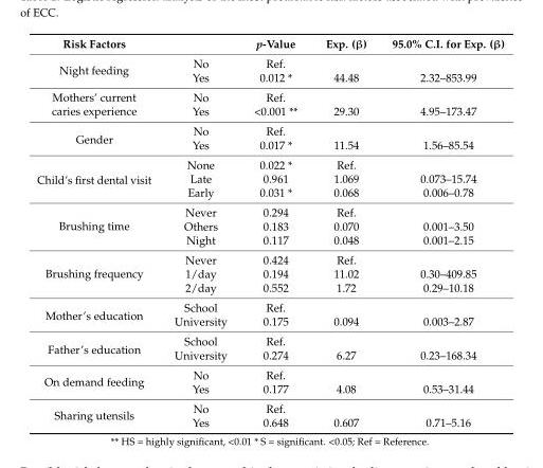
<table><thead><tr><td>Risk Factors</td><td></td><td>p-Value</td><td>Exp. (β)</td><td>95.0% C.I. for Exp. (β)</td></tr></thead><tbody><tr><td rowspan="2">Night feeding</td><td>No</td><td>Ref.</td><td></td><td></td></tr><tr><td>Yes</td><td>0.012 *</td><td>44.48</td><td>2.32–853.99</td></tr><tr><td rowspan="2">Mothers’ current caries experience</td><td>No</td><td>Ref.</td><td></td><td></td></tr><tr><td>Yes</td><td>&lt;0.001 **</td><td>29.30</td><td>4.95–173.47</td></tr><tr><td rowspan="2">Gender</td><td>No</td><td>Ref.</td><td></td><td></td></tr><tr><td>Yes</td><td>0.017 *</td><td>11.54</td><td>1.56–85.54</td></tr><tr><td rowspan="3">Child’s first dental visit</td><td>None</td><td>0.022 *</td><td>Ref.</td><td></td></tr><tr><td>Late</td><td>0.961</td><td>1.069</td><td>0.073–15.74</td></tr><tr><td>Early</td><td>0.031 *</td><td>0.068</td><td>0.006–0.78</td></tr><tr><td rowspan="3">Brushing time</td><td>Never</td><td>0.294</td><td>Ref.</td><td></td></tr><tr><td>Others</td><td>0.183</td><td>0.070</td><td>0.001–3.50</td></tr><tr><td>Night</td><td>0.117</td><td>0.048</td><td>0.001–2.15</td></tr><tr><td rowspan="3">Brushing frequency</td><td>Never</td><td>0.424</td><td>Ref.</td><td></td></tr><tr><td>1/day</td><td>0.194</td><td>11.02</td><td>0.30–409.85</td></tr><tr><td>2/day</td><td>0.552</td><td>1.72</td><td>0.29–10.18</td></tr><tr><td rowspan="2">Mother’s education</td><td>School</td><td>Ref.</td><td></td><td></td></tr><tr><td>University</td><td>0.175</td><td>0.094</td><td>0.003–2.87</td></tr><tr><td rowspan="2">Father’s education</td><td>School</td><td>Ref.</td><td></td><td></td></tr><tr><td>University</td><td>0.274</td><td>6.27</td><td>0.23–168.34</td></tr><tr><td rowspan="2">On demand feeding</td><td>No</td><td>Ref.</td><td></td><td></td></tr><tr><td>Yes</td><td>0.177</td><td>4.08</td><td>0.53–31.44</td></tr><tr><td rowspan="2">Sharing utensils</td><td>No</td><td>Ref.</td><td></td><td></td></tr><tr><td>Yes</td><td>0.648</td><td>0.607</td><td>0.71–5.16</td></tr></tbody></table>